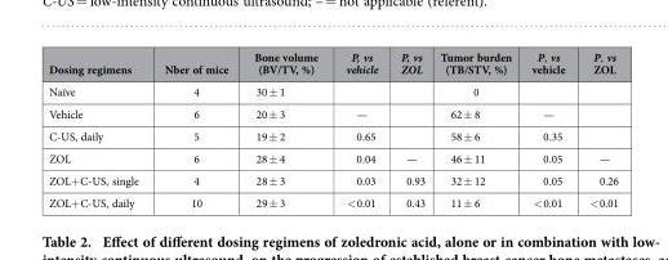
<table><thead><tr><td>Dosing regimens</td><td>Nber of mice</td><td>Bone volume (BV/TV, %)</td><td>P, vs vehicle</td><td>P, vs ZOL</td><td>Tumor burden (TB/STV, %)</td><td>P, vs vehicle</td><td>P, vs ZOL</td></tr></thead><tbody><tr><td>Naïve</td><td>4</td><td>30 ± 1</td><td></td><td></td><td>0</td><td></td><td></td></tr><tr><td>Vehicle</td><td>6</td><td>20 ± 3</td><td>—</td><td></td><td>62 ± 8</td><td>—</td><td></td></tr><tr><td>C-US, daily</td><td>5</td><td>19 ± 2</td><td>0.65</td><td></td><td>58 ± 6</td><td>0.35</td><td></td></tr><tr><td>ZOL</td><td>6</td><td>28 ± 4</td><td>0.04</td><td>—</td><td>46 ± 11</td><td>0.05</td><td>—</td></tr><tr><td>ZOL+ C-US, single</td><td>4</td><td>28 ± 3</td><td>0.03</td><td>0.93</td><td>32 ± 12</td><td>0.05</td><td>0.26</td></tr><tr><td>ZOL+ C-US, daily</td><td>10</td><td>29 ± 3</td><td>&lt; 0.01</td><td>0.43</td><td>11 ± 6</td><td>&lt; 0.01</td><td>&lt; 0.01</td></tr></tbody></table>